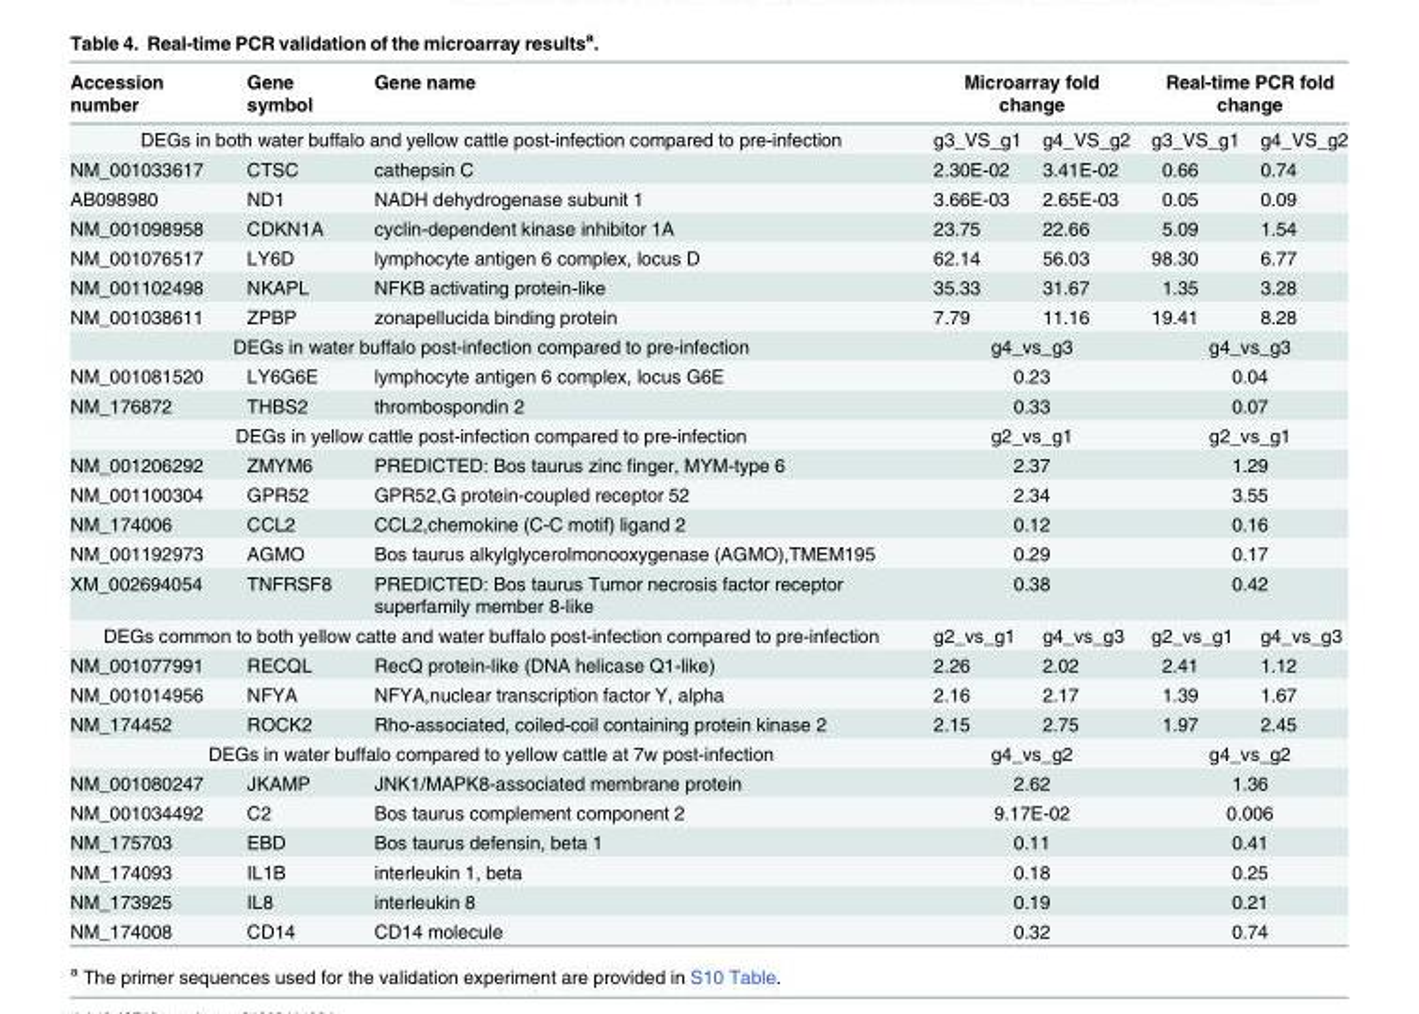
<table><thead><tr><td>Accession number</td><td>Gene symbol</td><td>Gene name</td><td colspan="2">Microarray fold change</td><td colspan="2">Real-time PCR fold change</td></tr><tr><td colspan="3">DEGs in both water buffalo and yellow cattle post-infection compared to pre-infection</td><td>g3_VS_g1</td><td>g4_VS_g2</td><td>g3_VS_g1</td><td>g4_VS_g2</td></tr></thead><tbody><tr><td>NM_001033617</td><td>CTSC</td><td>cathepsin C</td><td>2.30E-02</td><td>3.41E-02</td><td>0.66</td><td>0.74</td></tr><tr><td>AB098980</td><td>ND1</td><td>NADH dehydrogenase subunit 1</td><td>3.66E-03</td><td>2.65E-03</td><td>0.05</td><td>0.09</td></tr><tr><td>NM_001098958</td><td>CDKN1A</td><td>cyclin-dependent kinase inhibitor 1A</td><td>23.75</td><td>22.66</td><td>5.09</td><td>1.54</td></tr><tr><td>NM_001076517</td><td>LY6D</td><td>lymphocyte antigen 6 complex, locus D</td><td>62.14</td><td>56.03</td><td>98.30</td><td>6.77</td></tr><tr><td>NM_001102498</td><td>NKAPL</td><td>NFKB activating protein-like</td><td>35.33</td><td>31.67</td><td>1.35</td><td>3.28</td></tr><tr><td>NM_001038611</td><td>ZPBP</td><td>zonapellucida binding protein</td><td>7.79</td><td>11.16</td><td>19.41</td><td>8.28</td></tr><tr><td colspan="3">DEGs in water buffalo post-infection compared to pre-infection</td><td colspan="2">g4_vs_g3</td><td colspan="2">g4_vs_g3</td></tr><tr><td>NM_001081520</td><td>LY6G6E</td><td>lymphocyte antigen 6 complex, locus G6E</td><td colspan="2">0.23</td><td colspan="2">0.04</td></tr><tr><td>NM_176872</td><td>THBS2</td><td>thrombospondin 2</td><td colspan="2">0.33</td><td colspan="2">0.07</td></tr><tr><td colspan="3">DEGs in yellow cattle post-infection compared to pre-infection</td><td colspan="2">g2_vs_g1</td><td colspan="2">g2_vs_g1</td></tr><tr><td>NM_001206292</td><td>ZMYM6</td><td>PREDICTED: Bos taurus zinc finger, MYM-type 6</td><td colspan="2">2.37</td><td colspan="2">1.29</td></tr><tr><td>NM_001100304</td><td>GPR52</td><td>GPR52,G protein-coupled receptor 52</td><td colspan="2">2.34</td><td colspan="2">3.55</td></tr><tr><td>NM_174006</td><td>CCL2</td><td>CCL2,chemokine (C-C motif) ligand 2</td><td colspan="2">0.12</td><td colspan="2">0.16</td></tr><tr><td>NM_001192973</td><td>AGMO</td><td>Bos taurus alkylglycerolmonooxygenase (AGMO),TMEM195</td><td colspan="2">0.29</td><td colspan="2">0.17</td></tr><tr><td>XM_002694054</td><td>TNFRSF8</td><td>PREDICTED: Bos taurus Tumor necrosis factor receptor superfamily member 8-like</td><td colspan="2">0.38</td><td colspan="2">0.42</td></tr><tr><td colspan="3">DEGs common to both yellow catte and water buffalo post-infection compared to pre-infection</td><td>g2_vs_g1</td><td>g4_vs_g3</td><td>g2_vs_g1</td><td>g4_vs_g3</td></tr><tr><td>NM_001077991</td><td>RECQL</td><td>RecQ protein-like (DNA helicase Q1-like)</td><td>2.26</td><td>2.02</td><td>2.41</td><td>1.12</td></tr><tr><td>NM_001014956</td><td>NFYA</td><td>NFYA,nuclear transcription factor Y, alpha</td><td>2.16</td><td>2.17</td><td>1.39</td><td>1.67</td></tr><tr><td>NM_174452</td><td>ROCK2</td><td>Rho-associated, coiled-coil containing protein kinase 2</td><td>2.15</td><td>2.75</td><td>1.97</td><td>2.45</td></tr><tr><td colspan="3">DEGs in water buffalo compared to yellow cattle at 7w post-infection</td><td colspan="2">g4_vs_g2</td><td colspan="2">g4_vs_g2</td></tr><tr><td>NM_001080247</td><td>JKAMP</td><td>JNK1/MAPK8-associated membrane protein</td><td colspan="2">2.62</td><td colspan="2">1.36</td></tr><tr><td>NM_001034492</td><td>C2</td><td>Bos taurus complement component 2</td><td colspan="2">9.17E-02</td><td colspan="2">0.006</td></tr><tr><td>NM_175703</td><td>EBD</td><td>Bos taurus defensin, beta 1</td><td colspan="2">0.11</td><td colspan="2">0.41</td></tr><tr><td>NM_174093</td><td>IL1B</td><td>interleukin 1, beta</td><td colspan="2">0.18</td><td colspan="2">0.25</td></tr><tr><td>NM_173925</td><td>IL8</td><td>interleukin 8</td><td colspan="2">0.19</td><td colspan="2">0.21</td></tr><tr><td>NM_174008</td><td>CD14</td><td>CD14 molecule</td><td colspan="2">0.32</td><td colspan="2">0.74</td></tr></tbody></table>